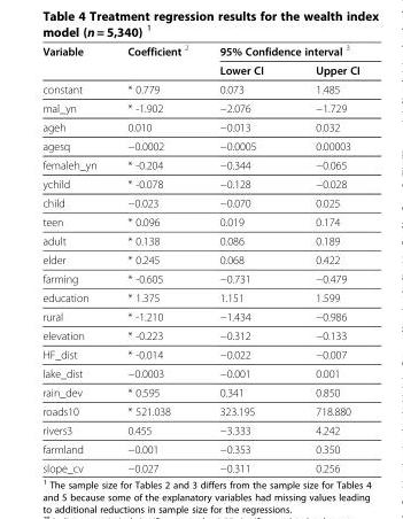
<table><thead><tr><td rowspan="2">Variable</td><td rowspan="2">Coefficient <sup>2</sup></td><td colspan="2">95% Confidence interval <sup>3</sup></td></tr><tr><td>Lower CI</td><td>Upper CI</td></tr></thead><tbody><tr><td>constant</td><td>* 0.779</td><td>0.073</td><td>1.485</td></tr><tr><td>mal_yn</td><td>* -1.902</td><td>−2.076</td><td>−1.729</td></tr><tr><td>ageh</td><td>0.010</td><td>−0.013</td><td>0.032</td></tr><tr><td>agesq</td><td>−0.0002</td><td>−0.0005</td><td>0.00003</td></tr><tr><td>femaleh_yn</td><td>* -0.204</td><td>−0.344</td><td>−0.065</td></tr><tr><td>ychild</td><td>* -0.078</td><td>−0.128</td><td>−0.028</td></tr><tr><td>child</td><td>−0.023</td><td>−0.070</td><td>0.025</td></tr><tr><td>teen</td><td>* 0.096</td><td>0.019</td><td>0.174</td></tr><tr><td>adult</td><td>* 0.138</td><td>0.086</td><td>0.189</td></tr><tr><td>elder</td><td>* 0.245</td><td>0.068</td><td>0.422</td></tr><tr><td>farming</td><td>* -0.605</td><td>−0.731</td><td>−0.479</td></tr><tr><td>education</td><td>* 1.375</td><td>1.151</td><td>1.599</td></tr><tr><td>rural</td><td>* -1.210</td><td>−1.434</td><td>−0.986</td></tr><tr><td>elevation</td><td>* -0.223</td><td>−0.312</td><td>−0.133</td></tr><tr><td>HF_dist</td><td>* -0.014</td><td>−0.022</td><td>−0.007</td></tr><tr><td>lake_dist</td><td>−0.0003</td><td>−0.001</td><td>0.001</td></tr><tr><td>rain_dev</td><td>* 0.595</td><td>0.341</td><td>0.850</td></tr><tr><td>roads10</td><td>* 521.038</td><td>323.195</td><td>718.880</td></tr><tr><td>rivers3</td><td>0.455</td><td>−3.333</td><td>4.242</td></tr><tr><td>farmland</td><td>−0.001</td><td>−0.353</td><td>0.350</td></tr><tr><td>slope_cv</td><td>−0.027</td><td>−0.311</td><td>0.256</td></tr></tbody></table>